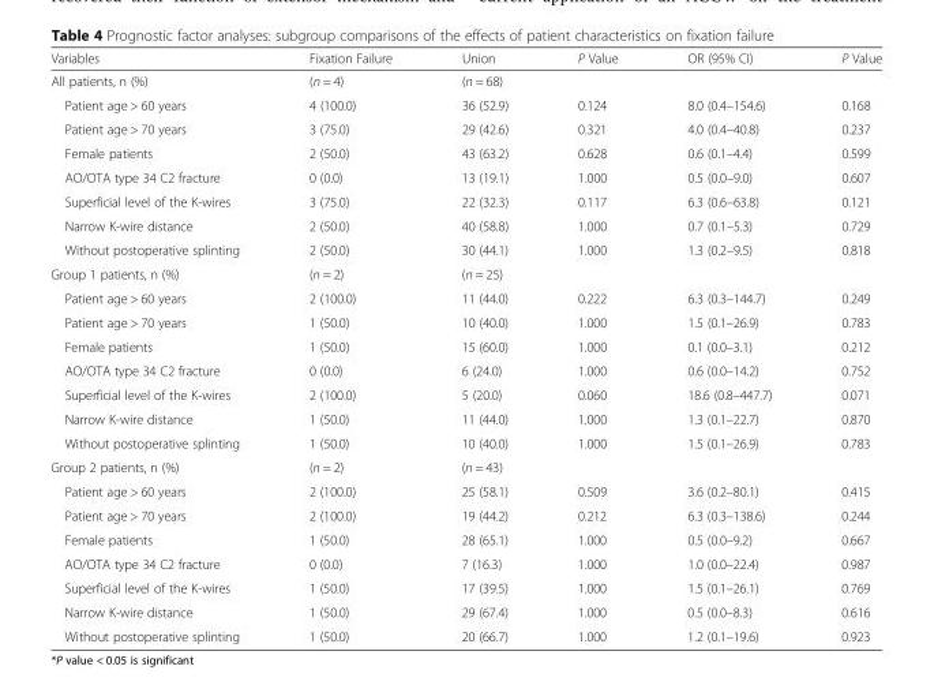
<table><thead><tr><td>Variables</td><td>Fixation Failure</td><td>Union</td><td>P Value</td><td>OR (95% CI)</td><td>P Value</td></tr></thead><tbody><tr><td>All patients, n (%)</td><td>(n = 4)</td><td>(n = 68)</td><td></td><td></td><td></td></tr><tr><td>Patient age &gt; 60 years</td><td>4 (100.0)</td><td>36 (52.9)</td><td>0.124</td><td>8.0 (0.4–154.6)</td><td>0.168</td></tr><tr><td>Patient age &gt; 70 years</td><td>3 (75.0)</td><td>29 (42.6)</td><td>0.321</td><td>4.0 (0.4–40.8)</td><td>0.237</td></tr><tr><td>Female patients</td><td>2 (50.0)</td><td>43 (63.2)</td><td>0.628</td><td>0.6 (0.1–4.4)</td><td>0.599</td></tr><tr><td>AO/OTA type 34 C2 fracture</td><td>0 (0.0)</td><td>13 (19.1)</td><td>1.000</td><td>0.5 (0.0–9.0)</td><td>0.607</td></tr><tr><td>Superficial level of the K-wires</td><td>3 (75.0)</td><td>22 (32.3)</td><td>0.117</td><td>6.3 (0.6–63.8)</td><td>0.121</td></tr><tr><td>Narrow K-wire distance</td><td>2 (50.0)</td><td>40 (58.8)</td><td>1.000</td><td>0.7 (0.1–5.3)</td><td>0.729</td></tr><tr><td>Without postoperative splinting</td><td>2 (50.0)</td><td>30 (44.1)</td><td>1.000</td><td>1.3 (0.2–9.5)</td><td>0.818</td></tr><tr><td>Group 1 patients, n (%)</td><td>(n = 2)</td><td>(n = 25)</td><td></td><td></td><td></td></tr><tr><td>Patient age &gt; 60 years</td><td>2 (100.0)</td><td>11 (44.0)</td><td>0.222</td><td>6.3 (0.3–144.7)</td><td>0.249</td></tr><tr><td>Patient age &gt; 70 years</td><td>1 (50.0)</td><td>10 (40.0)</td><td>1.000</td><td>1.5 (0.1–26.9)</td><td>0.783</td></tr><tr><td>Female patients</td><td>1 (50.0)</td><td>15 (60.0)</td><td>1.000</td><td>0.1 (0.0–3.1)</td><td>0.212</td></tr><tr><td>AO/OTA type 34 C2 fracture</td><td>0 (0.0)</td><td>6 (24.0)</td><td>1.000</td><td>0.6 (0.0–14.2)</td><td>0.752</td></tr><tr><td>Superficial level of the K-wires</td><td>2 (100.0)</td><td>5 (20.0)</td><td>0.060</td><td>18.6 (0.8–447.7)</td><td>0.071</td></tr><tr><td>Narrow K-wire distance</td><td>1 (50.0)</td><td>11 (44.0)</td><td>1.000</td><td>1.3 (0.1–22.7)</td><td>0.870</td></tr><tr><td>Without postoperative splinting</td><td>1 (50.0)</td><td>10 (40.0)</td><td>1.000</td><td>1.5 (0.1–26.9)</td><td>0.783</td></tr><tr><td>Group 2 patients, n (%)</td><td>(n = 2)</td><td>(n = 43)</td><td></td><td></td><td></td></tr><tr><td>Patient age &gt; 60 years</td><td>2 (100.0)</td><td>25 (58.1)</td><td>0.509</td><td>3.6 (0.2–80.1)</td><td>0.415</td></tr><tr><td>Patient age &gt; 70 years</td><td>2 (100.0)</td><td>19 (44.2)</td><td>0.212</td><td>6.3 (0.3–138.6)</td><td>0.244</td></tr><tr><td>Female patients</td><td>1 (50.0)</td><td>28 (65.1)</td><td>1.000</td><td>0.5 (0.0–9.2)</td><td>0.667</td></tr><tr><td>AO/OTA type 34 C2 fracture</td><td>0 (0.0)</td><td>7 (16.3)</td><td>1.000</td><td>1.0 (0.0–22.4)</td><td>0.987</td></tr><tr><td>Superficial level of the K-wires</td><td>1 (50.0)</td><td>17 (39.5)</td><td>1.000</td><td>1.5 (0.1–26.1)</td><td>0.769</td></tr><tr><td>Narrow K-wire distance</td><td>1 (50.0)</td><td>29 (67.4)</td><td>1.000</td><td>0.5 (0.0–8.3)</td><td>0.616</td></tr><tr><td>Without postoperative splinting</td><td>1 (50.0)</td><td>20 (66.7)</td><td>1.000</td><td>1.2 (0.1–19.6)</td><td>0.923</td></tr></tbody></table>